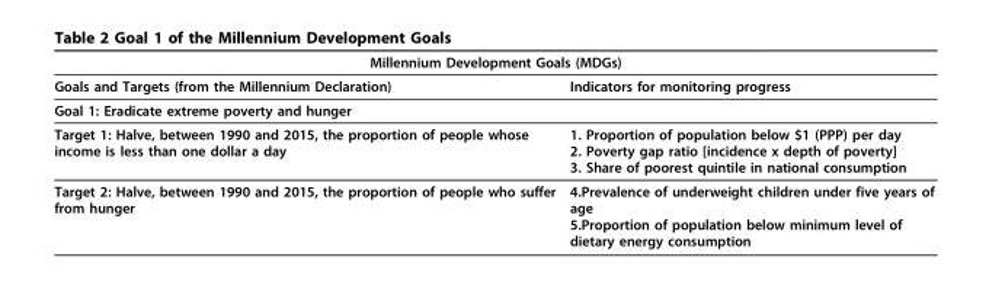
<table><thead><tr><td colspan="2">Millennium Development Goals (MDGs)</td></tr><tr><td>Goals and Targets (from the Millennium Declaration)</td><td>Indicators for monitoring progress</td></tr></thead><tbody><tr><td colspan="2">Goal 1: Eradicate extreme poverty and hunger</td></tr><tr><td>Target 1: Halve, between 1990 and 2015, the proportion of people whose income is less than one dollar a day</td><td>1. Proportion of population below $1 (PPP) per day 2. Poverty gap ratio [incidence x depth of poverty] 3. Share of poorest quintile in national consumption</td></tr><tr><td>Target 2: Halve, between 1990 and 2015, the proportion of people who suffer from hunger</td><td>4.Prevalence of underweight children under five years of age 5.Proportion of population below minimum level of dietary energy consumption</td></tr></tbody></table>